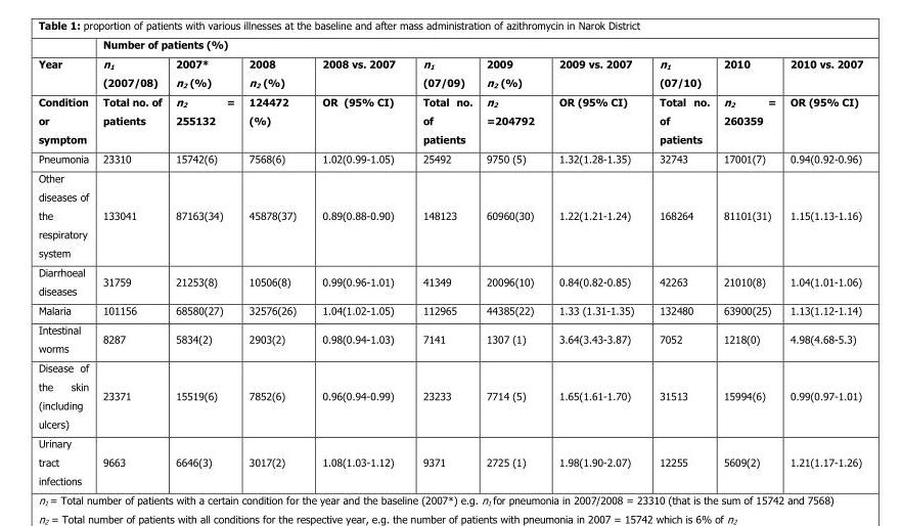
<table><thead><tr><td rowspan="3">Year Condition or symptom</td><td colspan="10">Number of patients (%)</td></tr><tr><td rowspan="2">n<sub>1</sub> (2007/08) Total no. of patients</td><td rowspan="2">2007* n<sub>2</sub> (%) n<sub>2</sub> = 255132</td><td rowspan="2">2008 n<sub>2</sub> (%) 124472 (%)</td><td rowspan="2">2008 vs. 2007 OR (95% CI)</td><td rowspan="2">n<sub>1</sub> (07/09) Total no. of patients</td><td rowspan="2">2009 n<sub>2</sub> (%) n<sub>2</sub> =204792</td><td rowspan="2">2009 vs. 2007 OR (95% CI)</td><td rowspan="2">n<sub>1</sub> (07/10) Total no. of patients</td><td rowspan="2">2010 n<sub>2</sub> = 260359</td><td rowspan="2">2010 vs. 2007 OR (95% CI)</td></tr><tr></tr></thead><tbody><tr><td>Pneumonia</td><td>23310</td><td>15742(6)</td><td>7568(6)</td><td>1.02(0.99-1.05)</td><td>25492</td><td>9750 (5)</td><td>1.32(1.28-1.35)</td><td>32743</td><td>17001(7)</td><td>0.94(0.92-0.96)</td></tr><tr><td>Other diseases of the respiratory system</td><td>133041</td><td>87163(34)</td><td>45878(37)</td><td>0.89(0.88-0.90)</td><td>148123</td><td>60960(30)</td><td>1.22(1.21-1.24)</td><td>168264</td><td>81101(31)</td><td>1.15(1.13-1.16)</td></tr><tr><td>Diarrhoeal diseases</td><td>31759</td><td>21253(8)</td><td>10506(8)</td><td>0.99(0.96-1.01)</td><td>41349</td><td>20096(10)</td><td>0.84(0.82-0.85)</td><td>42263</td><td>21010(8)</td><td>1.04(1.01-1.06)</td></tr><tr><td>Malaria</td><td>101156</td><td>68580(27)</td><td>32576(26)</td><td>1.04(1.02-1.05)</td><td>112965</td><td>44385(22)</td><td>1.33 (1.31-1.35)</td><td>132480</td><td>63900(25)</td><td>1.13(1.12-1.14)</td></tr><tr><td>Intestinal worms</td><td>8287</td><td>5834(2)</td><td>2903(2)</td><td>0.98(0.94-1.03)</td><td>7141</td><td>1307 (1)</td><td>3.64(3.43-3.87)</td><td>7052</td><td>1218(0)</td><td>4.98(4.68-5.3)</td></tr><tr><td>Disease of the skin (including ulcers)</td><td>23371</td><td>15519(6)</td><td>7852(6)</td><td>0.96(0.94-0.99)</td><td>23233</td><td>7714 (5)</td><td>1.65(1.61-1.70)</td><td>31513</td><td>15994(6)</td><td>0.99(0.97-1.01)</td></tr><tr><td>Urinary tract infections</td><td>9663</td><td>6646(3)</td><td>3017(2)</td><td>1.08(1.03-1.12)</td><td>9371</td><td>2725 (1)</td><td>1.98(1.90-2.07)</td><td>12255</td><td>5609(2)</td><td>1.21(1.17-1.26)</td></tr></tbody></table>